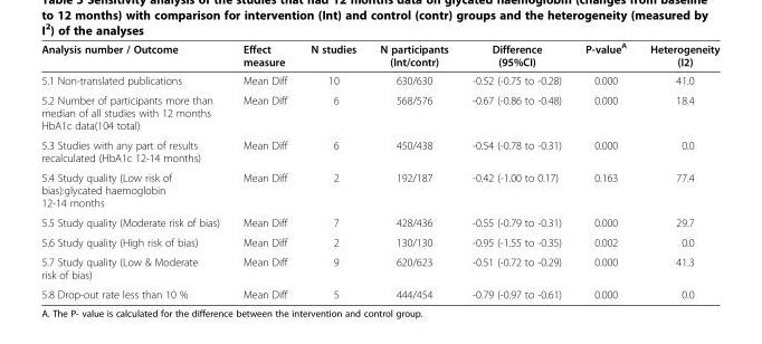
<table><thead><tr><td>Analysis number / Outcome</td><td>Effect measure</td><td>N studies</td><td>N participants (Int/contr)</td><td>Difference (95%CI)</td><td>P-value<sup>A</sup></td><td>Heterogeneity (I2)</td></tr></thead><tbody><tr><td>5.1 Non-translated publications</td><td>Mean Diff</td><td>10</td><td>630/630</td><td>-0.52 (-0.75 to -0.28)</td><td>0.000</td><td>41.0</td></tr><tr><td>5.2 Number of participants more than median of all studies with 12 months HbA1c data(104 total)</td><td>Mean Diff</td><td>6</td><td>568/576</td><td>-0.67 (-0.86 to -0.48)</td><td>0.000</td><td>18.4</td></tr><tr><td>5.3 Studies with any part of results recalculated (HbA1c 12-14 months)</td><td>Mean Diff</td><td>6</td><td>450/438</td><td>-0.54 (-0.78 to -0.31)</td><td>0.000</td><td>0.0</td></tr><tr><td>5.4 Study quality (Low risk of bias):glycated haemoglobin 12-14 months</td><td>Mean Diff</td><td>2</td><td>192/187</td><td>-0.42 (-1.00 to 0.17)</td><td>0.163</td><td>77.4</td></tr><tr><td>5.5 Study quality (Moderate risk of bias)</td><td>Mean Diff</td><td>7</td><td>428/436</td><td>-0.55 (-0.79 to -0.31)</td><td>0.000</td><td>29.7</td></tr><tr><td>5.6 Study quality (High risk of bias)</td><td>Mean Diff</td><td>2</td><td>130/130</td><td>-0.95 (-1.55 to -0.35)</td><td>0.002</td><td>0.0</td></tr><tr><td>5.7 Study quality (Low &amp; Moderate risk of bias)</td><td>Mean Diff</td><td>9</td><td>620/623</td><td>-0.51 (-0.72 to -0.29)</td><td>0.000</td><td>41.3</td></tr><tr><td>5.8 Drop-out rate less than 10 %</td><td>Mean Diff</td><td>5</td><td>444/454</td><td>-0.79 (-0.97 to -0.61)</td><td>0.000</td><td>0.0</td></tr></tbody></table>